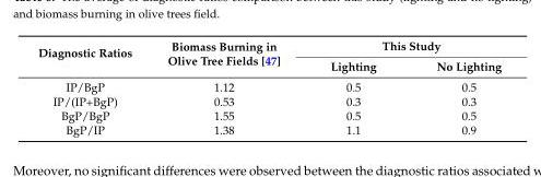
<table><thead><tr><td rowspan="2">Diagnostic Ratios</td><td rowspan="2">Biomass Burning in Olive Tree Fields [47]</td><td colspan="2">This Study</td></tr><tr><td>Lighting</td><td>No Lighting</td></tr></thead><tbody><tr><td>IP/BgP</td><td>1.12</td><td>0.5</td><td>0.5</td></tr><tr><td>IP/(IP+BgP)</td><td>0.53</td><td>0.3</td><td>0.3</td></tr><tr><td>BgP/BgP</td><td>1.55</td><td>0.5</td><td>0.5</td></tr><tr><td>BgP/IP</td><td>1.38</td><td>1.1</td><td>0.9</td></tr></tbody></table>